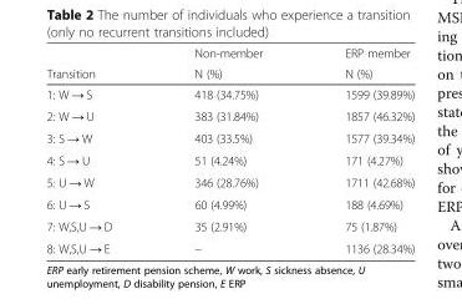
<table><thead><tr><td rowspan="2">Transition</td><td rowspan="2">Non-member N (%)</td><td rowspan="2">ERP member N (%)</td></tr><tr></tr></thead><tbody><tr><td>1: W → S</td><td>418 (34.75%)</td><td>1599 (39.89%)</td></tr><tr><td>2: W → U</td><td>383 (31.84%)</td><td>1857 (46.32%)</td></tr><tr><td>3: S → W</td><td>403 (33.5%)</td><td>1577 (39.34%)</td></tr><tr><td>4: S → U</td><td>51 (4.24%)</td><td>171 (4.27%)</td></tr><tr><td>5: U → W</td><td>346 (28.76%)</td><td>1711 (42.68%)</td></tr><tr><td>6: U → S</td><td>60 (4.99%)</td><td>188 (4.69%)</td></tr><tr><td>7: W,S,U → D</td><td>35 (2.91%)</td><td>75 (1.87%)</td></tr><tr><td>8: W,S,U → E</td><td>–</td><td>1136 (28.34%)</td></tr></tbody></table>